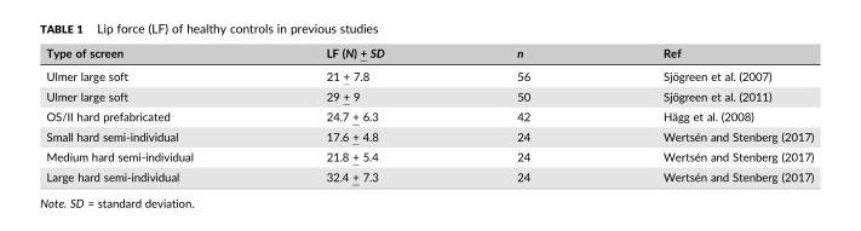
<table><thead><tr><td>Type of screen</td><td>LF (N) + SD</td><td>n</td><td>Ref</td></tr></thead><tbody><tr><td>Ulmer large soft</td><td>21 + 7.8</td><td>56</td><td>Sjögreen et al. (2007)</td></tr><tr><td>Ulmer large soft</td><td>29 + 9</td><td>50</td><td>Sjögreen et al. (2011)</td></tr><tr><td>OS/II hard prefabricated</td><td>24.7 + 6.3</td><td>42</td><td>Hägg et al. (2008)</td></tr><tr><td>Small hard semi‐individual</td><td>17.6 + 4.8</td><td>24</td><td>Wertsén and Stenberg (2017)</td></tr><tr><td>Medium hard semi‐individual</td><td>21.8 + 5.4</td><td>24</td><td>Wertsén and Stenberg (2017)</td></tr><tr><td>Large hard semi‐individual</td><td>32.4 + 7.3</td><td>24</td><td>Wertsén and Stenberg (2017)</td></tr></tbody></table>